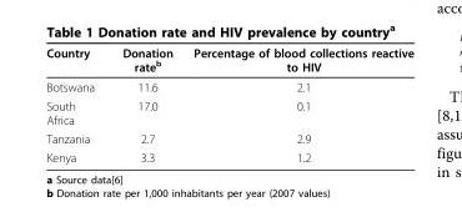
<table><thead><tr><td>Country</td><td>Donation rate<sup>b</sup></td><td>Percentage of blood collections reactive to HIV</td></tr></thead><tbody><tr><td>Botswana</td><td>11.6</td><td>2.1</td></tr><tr><td>South Africa</td><td>17.0</td><td>0.1</td></tr><tr><td>Tanzania</td><td>2.7</td><td>2.9</td></tr><tr><td>Kenya</td><td>3.3</td><td>1.2</td></tr></tbody></table>